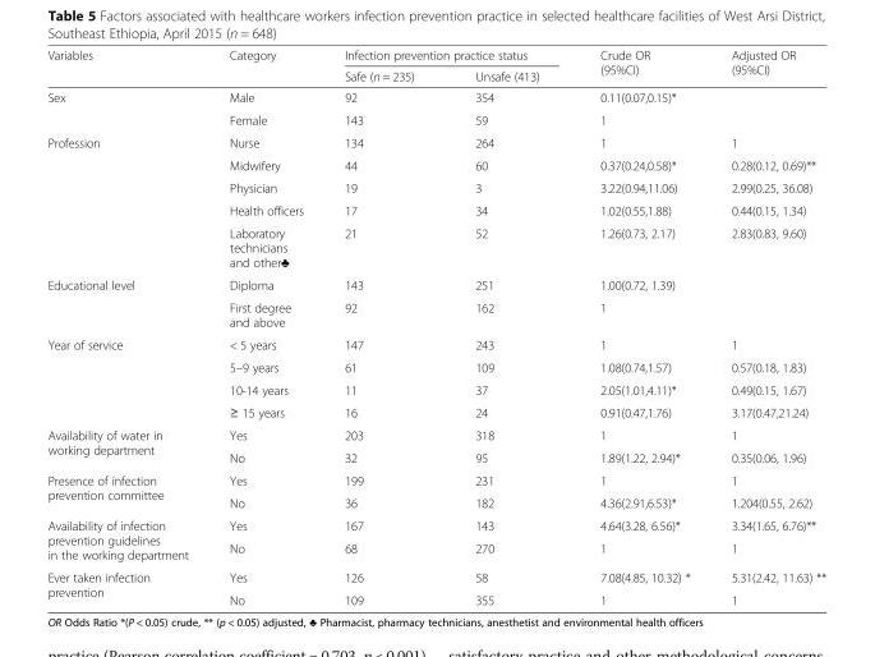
<table><thead><tr><td rowspan="2">Variables</td><td rowspan="2">Category</td><td colspan="2">Infection prevention practice status</td><td rowspan="2">Crude OR (95%CI)</td><td rowspan="2">Adjusted OR (95%CI)</td></tr><tr><td>Safe (n = 235)</td><td>Unsafe (413)</td></tr></thead><tbody><tr><td rowspan="2">Sex</td><td>Male</td><td>92</td><td>354</td><td>0.11(0.07,0.15)*</td><td></td></tr><tr><td>Female</td><td>143</td><td>59</td><td>1</td><td></td></tr><tr><td rowspan="5">Profession</td><td>Nurse</td><td>134</td><td>264</td><td>1</td><td>1</td></tr><tr><td>Midwifery</td><td>44</td><td>60</td><td>0.37(0.24,0.58)*</td><td>0.28(0.12, 0.69)**</td></tr><tr><td>Physician</td><td>19</td><td>3</td><td>3.22(0.94,11.06)</td><td>2.99(0.25, 36.08)</td></tr><tr><td>Health officers</td><td>17</td><td>34</td><td>1.02(0.55,1.88)</td><td>0.44(0.15, 1.34)</td></tr><tr><td>Laboratory technicians and other♣</td><td>21</td><td>52</td><td>1.26(0.73, 2.17)</td><td>2.83(0.83, 9.60)</td></tr><tr><td rowspan="2">Educational level</td><td>Diploma</td><td>143</td><td>251</td><td>1.00(0.72, 1.39)</td><td></td></tr><tr><td>First degree and above</td><td>92</td><td>162</td><td>1</td><td></td></tr><tr><td rowspan="4">Year of service</td><td>&lt; 5 years</td><td>147</td><td>243</td><td>1</td><td>1</td></tr><tr><td>5–9 years</td><td>61</td><td>109</td><td>1.08(0.74,1.57)</td><td>0.57(0.18, 1.83)</td></tr><tr><td>10-14 years</td><td>11</td><td>37</td><td>2.05(1.01,4.11)*</td><td>0.49(0.15, 1.67)</td></tr><tr><td>≥ 15 years</td><td>16</td><td>24</td><td>0.91(0.47,1.76)</td><td>3.17(0.47,21.24)</td></tr><tr><td rowspan="2">Availability of water in working department</td><td>Yes</td><td>203</td><td>318</td><td>1</td><td>1</td></tr><tr><td>No</td><td>32</td><td>95</td><td>1.89(1.22, 2.94)*</td><td>0.35(0.06, 1.96)</td></tr><tr><td rowspan="2">Presence of infection prevention committee</td><td>Yes</td><td>199</td><td>231</td><td>1</td><td>1</td></tr><tr><td>No</td><td>36</td><td>182</td><td>4.36(2.91,6.53)*</td><td>1.204(0.55, 2.62)</td></tr><tr><td rowspan="2">Availability of infection prevention guidelines in the working department</td><td>Yes</td><td>167</td><td>143</td><td>4.64(3.28, 6.56)*</td><td>3.34(1.65, 6.76)**</td></tr><tr><td>No</td><td>68</td><td>270</td><td>1</td><td>1</td></tr><tr><td rowspan="2">Ever taken infection prevention</td><td>Yes</td><td>126</td><td>58</td><td>7.08(4.85, 10.32) *</td><td>5.31(2.42, 11.63) **</td></tr><tr><td>No</td><td>109</td><td>355</td><td>1</td><td>1</td></tr></tbody></table>